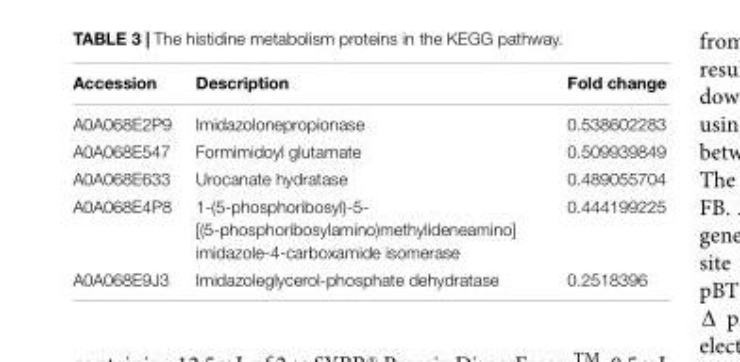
<table><thead><tr><td>Accession</td><td>Description</td><td>Fold change</td></tr></thead><tbody><tr><td>A0A068E2P9</td><td>Imidazolonepropionase</td><td>0.538602283</td></tr><tr><td>A0A068E547</td><td>Formimidoyl glutamate</td><td>0.509939849</td></tr><tr><td>A0A068E633</td><td>Urocanate hydratase</td><td>0.489055704</td></tr><tr><td>A0A068E4P8</td><td>1-(5-phosphoribosyl)-5- [(5-phosphoribosylamino)methylideneamino] imidazole-4-carboxamide isomerase</td><td>0.444199225</td></tr><tr><td>A0A068E9J3</td><td>Imidazoleglycerol-phosphate dehydratase</td><td>0.2518396</td></tr></tbody></table>